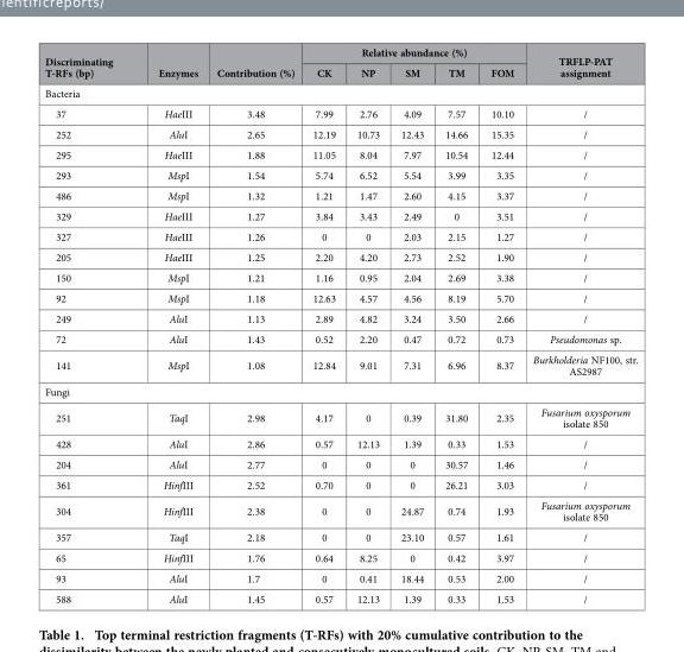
<table><thead><tr><td rowspan="2">Discriminating T-RFs (bp)</td><td rowspan="2">Enzymes</td><td rowspan="2">Contribution (%)</td><td colspan="5">Relative abundance (%)</td><td rowspan="2">TRFLP-PAT assignment</td></tr><tr><td>CK</td><td>NP</td><td>SM</td><td>TM</td><td>FOM</td></tr></thead><tbody><tr><td colspan="9">Bacteria</td></tr><tr><td>37</td><td>HaeIII</td><td>3.48</td><td>7.99</td><td>2.76</td><td>4.09</td><td>7.57</td><td>10.10</td><td>/</td></tr><tr><td>252</td><td>AluI</td><td>2.65</td><td>12.19</td><td>10.73</td><td>12.43</td><td>14.66</td><td>15.35</td><td>/</td></tr><tr><td>295</td><td>HaeIII</td><td>1.88</td><td>11.05</td><td>8.04</td><td>7.97</td><td>10.54</td><td>12.44</td><td>/</td></tr><tr><td>293</td><td>MspI</td><td>1.54</td><td>5.74</td><td>6.52</td><td>5.54</td><td>3.99</td><td>3.35</td><td>/</td></tr><tr><td>486</td><td>MspI</td><td>1.32</td><td>1.21</td><td>1.47</td><td>2.60</td><td>4.15</td><td>3.37</td><td>/</td></tr><tr><td>329</td><td>HaeIII</td><td>1.27</td><td>3.84</td><td>3.43</td><td>2.49</td><td>0</td><td>3.51</td><td>/</td></tr><tr><td>327</td><td>HaeIII</td><td>1.26</td><td>0</td><td>0</td><td>2.03</td><td>2.15</td><td>1.27</td><td>/</td></tr><tr><td>205</td><td>HaeIII</td><td>1.25</td><td>2.20</td><td>4.20</td><td>2.73</td><td>2.52</td><td>1.90</td><td>/</td></tr><tr><td>150</td><td>MspI</td><td>1.21</td><td>1.16</td><td>0.95</td><td>2.04</td><td>2.69</td><td>3.38</td><td>/</td></tr><tr><td>92</td><td>MspI</td><td>1.18</td><td>12.63</td><td>4.57</td><td>4.56</td><td>8.19</td><td>5.70</td><td>/</td></tr><tr><td>249</td><td>AluI</td><td>1.13</td><td>2.89</td><td>4.82</td><td>3.24</td><td>3.50</td><td>2.66</td><td>/</td></tr><tr><td>72</td><td>AluI</td><td>1.43</td><td>0.52</td><td>2.20</td><td>0.47</td><td>0.72</td><td>0.73</td><td>Pseudomonas sp.</td></tr><tr><td>141</td><td>MspI</td><td>1.08</td><td>12.84</td><td>9.01</td><td>7.31</td><td>6.96</td><td>8.37</td><td>Burkholderia NF100, str. AS2987</td></tr><tr><td colspan="9">Fungi</td></tr><tr><td>251</td><td>TaqI</td><td>2.98</td><td>4.17</td><td>0</td><td>0.39</td><td>31.80</td><td>2.35</td><td>Fusarium oxysporum isolate 850</td></tr><tr><td>428</td><td>AluI</td><td>2.86</td><td>0.57</td><td>12.13</td><td>1.39</td><td>0.33</td><td>1.53</td><td>/</td></tr><tr><td>204</td><td>AluI</td><td>2.77</td><td>0</td><td>0</td><td>0</td><td>30.57</td><td>1.46</td><td>/</td></tr><tr><td>361</td><td>HinfIII</td><td>2.52</td><td>0.70</td><td>0</td><td>0</td><td>26.21</td><td>3.03</td><td>/</td></tr><tr><td>304</td><td>HinfIII</td><td>2.38</td><td>0</td><td>0</td><td>24.87</td><td>0.74</td><td>1.93</td><td>Fusarium oxysporum isolate 850</td></tr><tr><td>357</td><td>TaqI</td><td>2.18</td><td>0</td><td>0</td><td>23.10</td><td>0.57</td><td>1.61</td><td>/</td></tr><tr><td>65</td><td>HinfIII</td><td>1.76</td><td>0.64</td><td>8.25</td><td>0</td><td>0.42</td><td>3.97</td><td>/</td></tr><tr><td>93</td><td>AluI</td><td>1.7</td><td>0</td><td>0.41</td><td>18.44</td><td>0.53</td><td>2.00</td><td>/</td></tr><tr><td>588</td><td>AluI</td><td>1.45</td><td>0.57</td><td>12.13</td><td>1.39</td><td>0.33</td><td>1.53</td><td>/</td></tr></tbody></table>